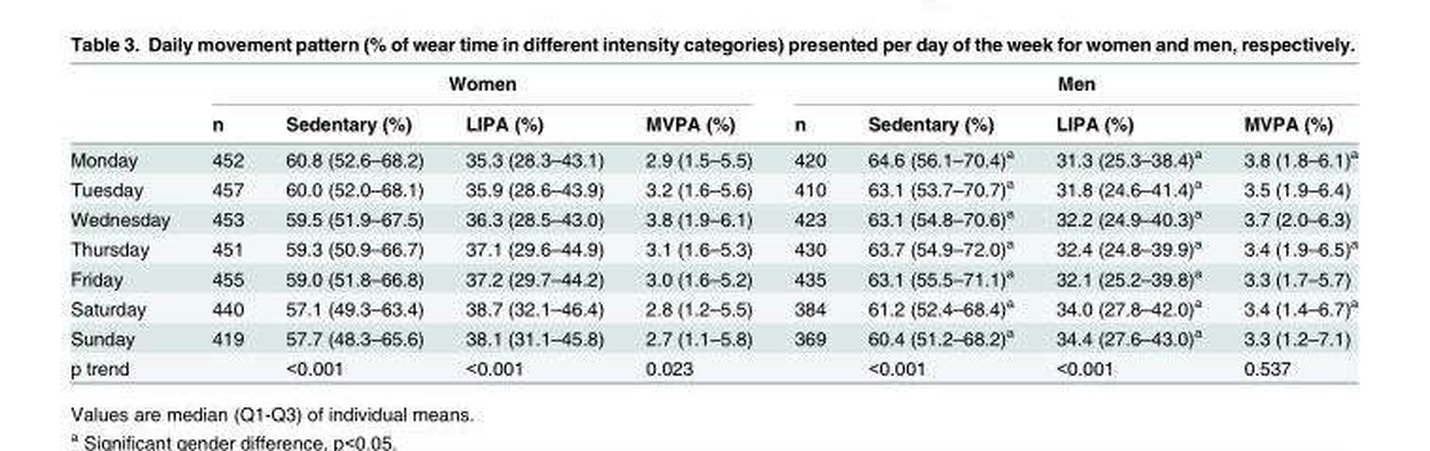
<table><thead><tr><td rowspan="2"></td><td colspan="4">Women</td><td colspan="4">Men</td></tr><tr><td>n</td><td>Sedentary (%)</td><td>LIPA (%)</td><td>MVPA (%)</td><td>n</td><td>Sedentary (%)</td><td>LIPA (%)</td><td>MVPA (%)</td></tr></thead><tbody><tr><td>Monday</td><td>452</td><td>60.8 (52.6–68.2)</td><td>35.3 (28.3–43.1)</td><td>2.9 (1.5–5.5)</td><td>420</td><td>64.6 (56.1–70.4)<sup>a</sup></td><td>31.3 (25.3–38.4)<sup>a</sup></td><td>3.8 (1.8–6.1)<sup>a</sup></td></tr><tr><td>Tuesday</td><td>457</td><td>60.0 (52.0–68.1)</td><td>35.9 (28.6–43.9)</td><td>3.2 (1.6–5.6)</td><td>410</td><td>63.1 (53.7–70.7)<sup>a</sup></td><td>31.8 (24.6–41.4)<sup>a</sup></td><td>3.5 (1.9–6.4)</td></tr><tr><td>Wednesday</td><td>453</td><td>59.5 (51.9–67.5)</td><td>36.3 (28.5–43.0)</td><td>3.8 (1.9–6.1)</td><td>423</td><td>63.1 (54.8–70.6)<sup>a</sup></td><td>32.2 (24.9–40.3)<sup>a</sup></td><td>3.7 (2.0–6.3)</td></tr><tr><td>Thursday</td><td>451</td><td>59.3 (50.9–66.7)</td><td>37.1 (29.6–44.9)</td><td>3.1 (1.6–5.3)</td><td>430</td><td>63.7 (54.9–72.0)<sup>a</sup></td><td>32.4 (24.8–39.9)<sup>a</sup></td><td>3.4 (1.9–6.5)<sup>a</sup></td></tr><tr><td>Friday</td><td>455</td><td>59.0 (51.8–66.8)</td><td>37.2 (29.7–44.2)</td><td>3.0 (1.6–5.2)</td><td>435</td><td>63.1 (55.5–71.1)<sup>a</sup></td><td>32.1 (25.2–39.8)<sup>a</sup></td><td>3.3 (1.7–5.7)</td></tr><tr><td>Saturday</td><td>440</td><td>57.1 (49.3–63.4)</td><td>38.7 (32.1–46.4)</td><td>2.8 (1.2–5.5)</td><td>384</td><td>61.2 (52.4–68.4)<sup>a</sup></td><td>34.0 (27.8–42.0)<sup>a</sup></td><td>3.4 (1.4–6.7)<sup>a</sup></td></tr><tr><td>Sunday</td><td>419</td><td>57.7 (48.3–65.6)</td><td>38.1 (31.1–45.8)</td><td>2.7 (1.1–5.8)</td><td>369</td><td>60.4 (51.2–68.2)<sup>a</sup></td><td>34.4 (27.6–43.0)<sup>a</sup></td><td>3.3 (1.2–7.1)</td></tr><tr><td>p trend</td><td></td><td>&lt;0.001</td><td>&lt;0.001</td><td>0.023</td><td></td><td>&lt;0.001</td><td>&lt;0.001</td><td>0.537</td></tr></tbody></table>